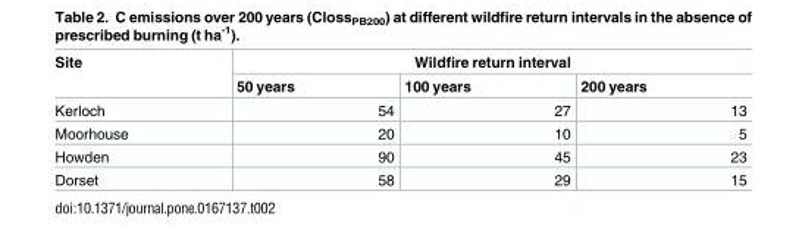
<table><thead><tr><td rowspan="2">Site</td><td colspan="3">Wildfire return interval</td></tr><tr><td>50 years</td><td>100 years</td><td>200 years</td></tr></thead><tbody><tr><td>Kerloch</td><td>54</td><td>27</td><td>13</td></tr><tr><td>Moorhouse</td><td>20</td><td>10</td><td>5</td></tr><tr><td>Howden</td><td>90</td><td>45</td><td>23</td></tr><tr><td>Dorset</td><td>58</td><td>29</td><td>15</td></tr></tbody></table>